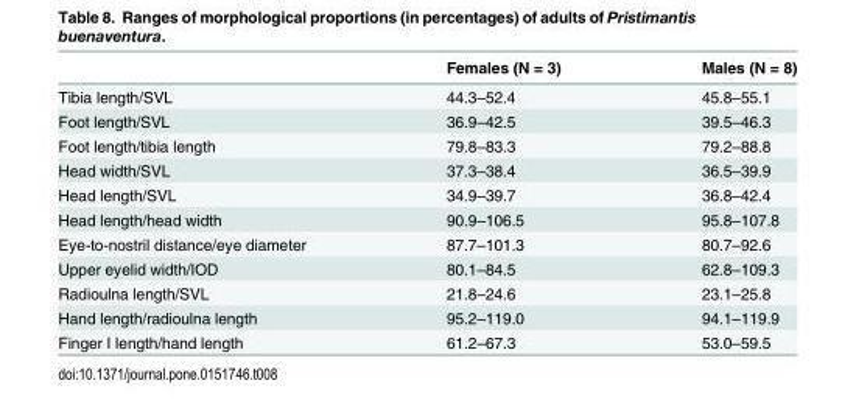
<table><thead><tr><td></td><td>Females (N = 3)</td><td>Males (N = 8)</td></tr></thead><tbody><tr><td>Tibia length/SVL</td><td>44.3–52.4</td><td>45.8–55.1</td></tr><tr><td>Foot length/SVL</td><td>36.9–42.5</td><td>39.5–46.3</td></tr><tr><td>Foot length/tibia length</td><td>79.8–83.3</td><td>79.2–88.8</td></tr><tr><td>Head width/SVL</td><td>37.3–38.4</td><td>36.5–39.9</td></tr><tr><td>Head length/SVL</td><td>34.9–39.7</td><td>36.8–42.4</td></tr><tr><td>Head length/head width</td><td>90.9–106.5</td><td>95.8–107.8</td></tr><tr><td>Eye-to-nostril distance/eye diameter</td><td>87.7–101.3</td><td>80.7–92.6</td></tr><tr><td>Upper eyelid width/IOD</td><td>80.1–84.5</td><td>62.8–109.3</td></tr><tr><td>Radioulna length/SVL</td><td>21.8–24.6</td><td>23.1–25.8</td></tr><tr><td>Hand length/radioulna length</td><td>95.2–119.0</td><td>94.1–119.9</td></tr><tr><td>Finger I length/hand length</td><td>61.2–67.3</td><td>53.0–59.5</td></tr></tbody></table>